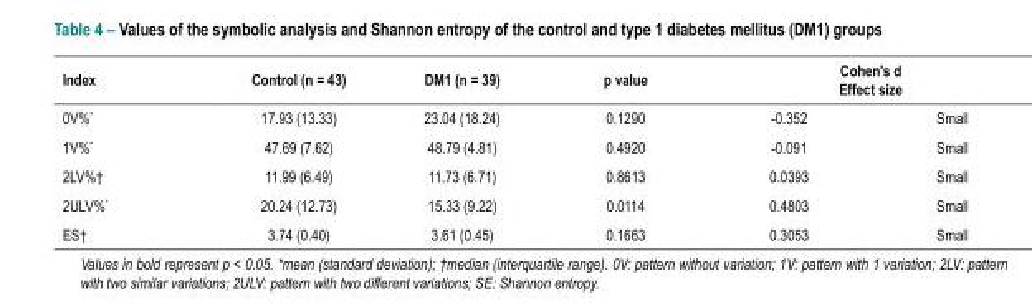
<table><thead><tr><td rowspan="2">Index 0V%*</td><td rowspan="2">Control (n = 43) 17.93 (13.33)</td><td rowspan="2">DM1 (n = 39) 23.04 (18.24)</td><td rowspan="2">p value 0.1290</td><td colspan="2">Cohen&#x27;s d Effect size</td></tr><tr><td>-0.352</td><td>Small</td></tr></thead><tbody><tr><td>1V%*</td><td>47.69 (7.62)</td><td>48.79 (4.81)</td><td>0.4920</td><td>-0.091</td><td>Small</td></tr><tr><td>2LV%†</td><td>11.99 (6.49)</td><td>11.73 (6.71)</td><td>0.8613</td><td>0.0393</td><td>Small</td></tr><tr><td>2ULV%*</td><td>20.24 (12.73)</td><td>15.33 (9.22)</td><td>0.0114</td><td>0.4803</td><td>Small</td></tr><tr><td>ES†</td><td>3.74 (0.40)</td><td>3.61 (0.45)</td><td>0.1663</td><td>0.3053</td><td>Small</td></tr></tbody></table>